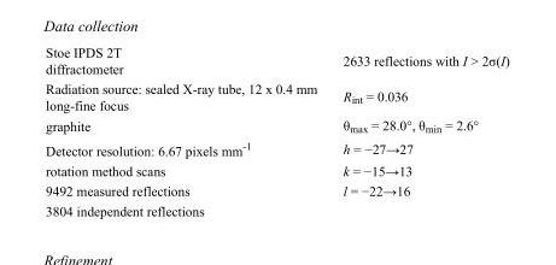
<table><tbody><tr><td>Stoe IPDS 2T diffractometer</td><td>2633 reflections with I &gt; 2σ(I)</td></tr><tr><td>Radiation source: sealed X-ray tube, 12 x 0.4 mm long-fine focus</td><td>R<sub>int</sub> = 0.036</td></tr><tr><td>graphite</td><td>θ<sub>max</sub> = 28.0°, θ<sub>min</sub> = 2.6°</td></tr><tr><td>Detector resolution: 6.67 pixels mm<sup>-1</sup></td><td>h = −27→27</td></tr><tr><td>rotation method scans</td><td>k = −15→13</td></tr><tr><td>9492 measured reflections</td><td>l = −22→16</td></tr><tr><td>3804 independent reflections</td><td></td></tr></tbody></table>